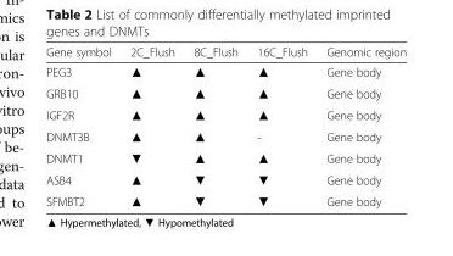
<table><thead><tr><td>Gene symbol</td><td>2C_Flush</td><td>8C_Flush</td><td>16C_Flush</td><td>Genomic region</td></tr></thead><tbody><tr><td>PEG3</td><td>▲</td><td>▲</td><td>▲</td><td>Gene body</td></tr><tr><td>GRB10</td><td>▲</td><td>▲</td><td>▲</td><td>Gene body</td></tr><tr><td>IGF2R</td><td>▲</td><td>▲</td><td>▲</td><td>Gene body</td></tr><tr><td>DNMT3B</td><td>▲</td><td>▲</td><td>-</td><td>Gene body</td></tr><tr><td>DNMT1</td><td>▼</td><td>▲</td><td>▲</td><td>Gene body</td></tr><tr><td>ASB4</td><td>▲</td><td>▼</td><td>▼</td><td>Gene body</td></tr><tr><td>SFMBT2</td><td>▲</td><td>▼</td><td>▼</td><td>Gene body</td></tr></tbody></table>